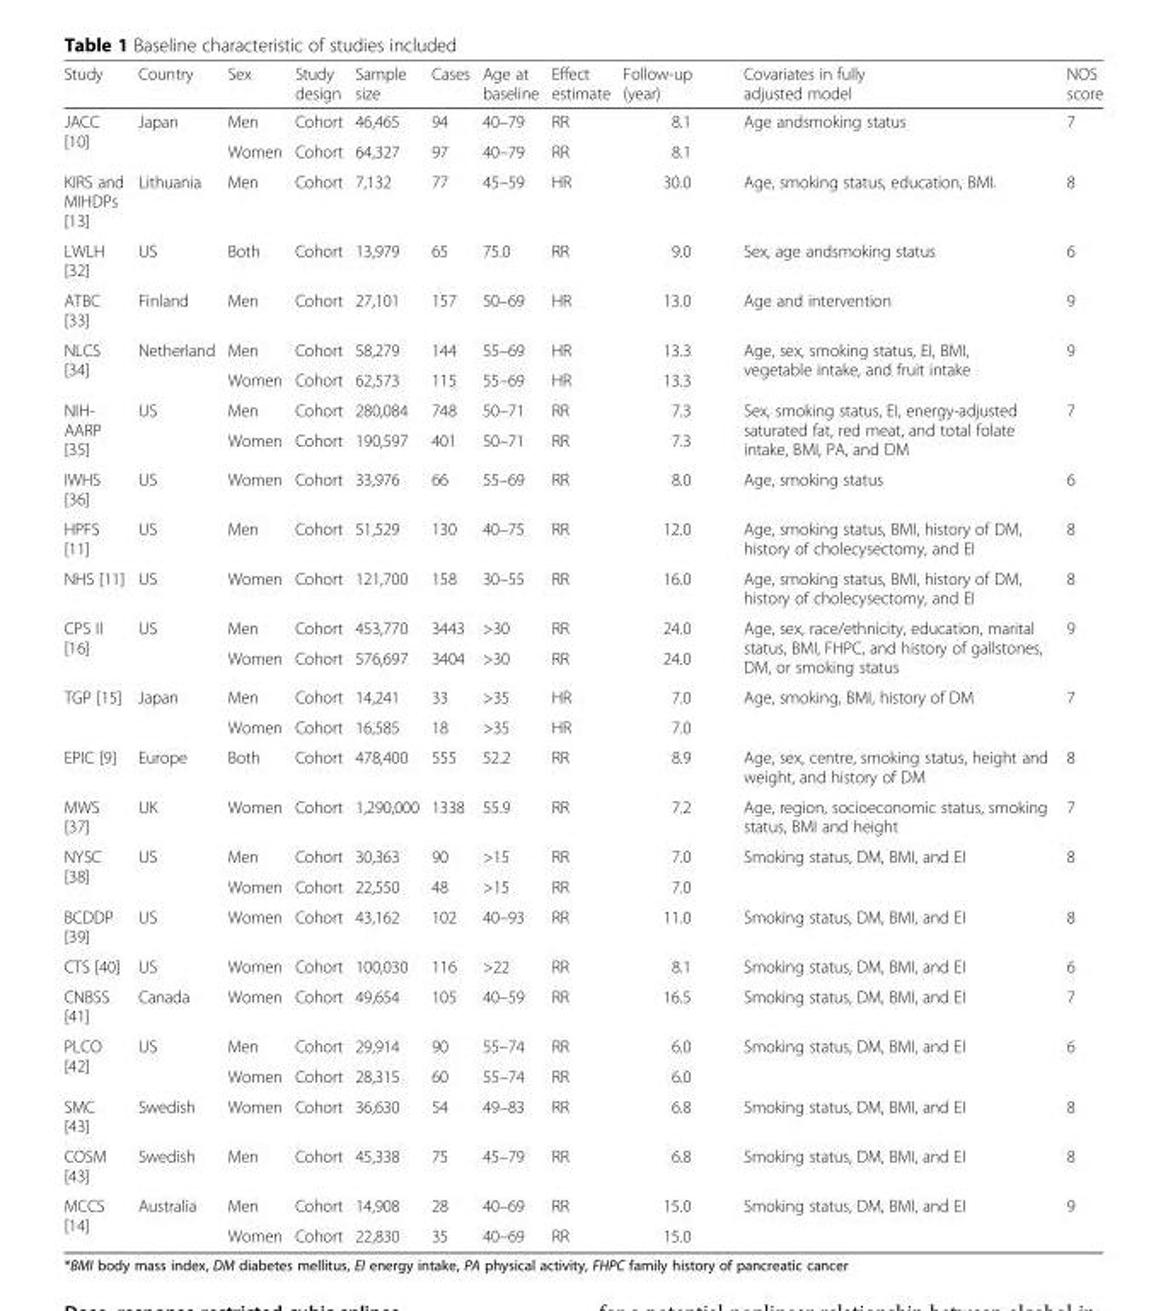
<table><thead><tr><td>Study</td><td>Country</td><td>Sex</td><td>Study design</td><td>Sample size</td><td>Cases</td><td>Age at baseline</td><td>Effect estimate</td><td>Follow-up (year)</td><td>Covariates in fully adjusted model</td><td>NOS score</td></tr></thead><tbody><tr><td rowspan="2">JACC [10]</td><td rowspan="2">Japan</td><td>Men</td><td>Cohort</td><td>46,465</td><td>94</td><td>40–79</td><td>RR</td><td>8.1</td><td rowspan="2">Age andsmoking status</td><td rowspan="2">7</td></tr><tr><td>Women</td><td>Cohort</td><td>64,327</td><td>97</td><td>40–79</td><td>RR</td><td>8.1</td></tr><tr><td>KIRS and MIHDPs [13]</td><td>Lithuania</td><td>Men</td><td>Cohort</td><td>7,132</td><td>77</td><td>45–59</td><td>HR</td><td>30.0</td><td>Age, smoking status, education, BMI.</td><td>8</td></tr><tr><td>LWLH [32]</td><td>US</td><td>Both</td><td>Cohort</td><td>13,979</td><td>65</td><td>75.0</td><td>RR</td><td>9.0</td><td>Sex, age andsmoking status</td><td>6</td></tr><tr><td>ATBC [33]</td><td>Finland</td><td>Men</td><td>Cohort</td><td>27,101</td><td>157</td><td>50–69</td><td>HR</td><td>13.0</td><td>Age and intervention</td><td>9</td></tr><tr><td rowspan="2">NLCS [34]</td><td rowspan="2">Netherland</td><td>Men</td><td>Cohort</td><td>58,279</td><td>144</td><td>55–69</td><td>HR</td><td>13.3</td><td rowspan="2">Age, sex, smoking status, EI, BMI, vegetable intake, and fruit intake</td><td rowspan="2">9</td></tr><tr><td>Women</td><td>Cohort</td><td>62,573</td><td>115</td><td>55–69</td><td>HR</td><td>13.3</td></tr><tr><td rowspan="2">NIH- AARP [35]</td><td rowspan="2">US</td><td>Men</td><td>Cohort</td><td>280,084</td><td>748</td><td>50–71</td><td>RR</td><td>7.3</td><td rowspan="2">Sex, smoking status, EI, energy-adjusted saturated fat, red meat, and total folate intake, BMI, PA, and DM</td><td rowspan="2">7</td></tr><tr><td>Women</td><td>Cohort</td><td>190,597</td><td>401</td><td>50–71</td><td>RR</td><td>7.3</td></tr><tr><td>IWHS [36]</td><td>US</td><td>Women</td><td>Cohort</td><td>33,976</td><td>66</td><td>55–69</td><td>RR</td><td>8.0</td><td>Age, smoking status</td><td>6</td></tr><tr><td>HPFS [11]</td><td>US</td><td>Men</td><td>Cohort</td><td>51,529</td><td>130</td><td>40–75</td><td>RR</td><td>12.0</td><td>Age, smoking status, BMI, history of DM, history of cholecysectomy, and EI</td><td>8</td></tr><tr><td>NHS [11]</td><td>US</td><td>Women</td><td>Cohort</td><td>121,700</td><td>158</td><td>30–55</td><td>RR</td><td>16.0</td><td>Age, smoking status, BMI, history of DM, history of cholecysectomy, and EI</td><td>8</td></tr><tr><td rowspan="2">CPS II [16]</td><td rowspan="2">US</td><td>Men</td><td>Cohort</td><td>453,770</td><td>3443</td><td>&gt;30</td><td>RR</td><td>24.0</td><td rowspan="2">Age, sex, race/ethnicity, education, marital status, BMI, FHPC, and history of gallstones, DM, or smoking status</td><td rowspan="2">9</td></tr><tr><td>Women</td><td>Cohort</td><td>576,697</td><td>3404</td><td>&gt;30</td><td>RR</td><td>24.0</td></tr><tr><td rowspan="2">TGP [15]</td><td rowspan="2">Japan</td><td>Men</td><td>Cohort</td><td>14,241</td><td>33</td><td>&gt;35</td><td>HR</td><td>7.0</td><td rowspan="2">Age, smoking, BMI, history of DM</td><td rowspan="2">7</td></tr><tr><td>Women</td><td>Cohort</td><td>16,585</td><td>18</td><td>&gt;35</td><td>HR</td><td>7.0</td></tr><tr><td>EPIC [9]</td><td>Europe</td><td>Both</td><td>Cohort</td><td>478,400</td><td>555</td><td>52.2</td><td>RR</td><td>8.9</td><td>Age, sex, centre, smoking status, height and weight, and history of DM</td><td>8</td></tr><tr><td>MWS [37]</td><td>UK</td><td>Women</td><td>Cohort</td><td>1,290,000</td><td>1338</td><td>55.9</td><td>RR</td><td>7.2</td><td>Age, region, socioeconomic status, smoking status, BMI and height</td><td>7</td></tr><tr><td rowspan="2">NYSC [38]</td><td rowspan="2">US</td><td>Men</td><td>Cohort</td><td>30,363</td><td>90</td><td>&gt;15</td><td>RR</td><td>7.0</td><td rowspan="2">Smoking status, DM, BMI, and EI</td><td rowspan="2">8</td></tr><tr><td>Women</td><td>Cohort</td><td>22,550</td><td>48</td><td>&gt;15</td><td>RR</td><td>7.0</td></tr><tr><td>BCDDP [39]</td><td>US</td><td>Women</td><td>Cohort</td><td>43,162</td><td>102</td><td>40–93</td><td>RR</td><td>11.0</td><td>Smoking status, DM, BMI, and EI</td><td>8</td></tr><tr><td>CTS [40]</td><td>US</td><td>Women</td><td>Cohort</td><td>100,030</td><td>116</td><td>&gt;22</td><td>RR</td><td>8.1</td><td>Smoking status, DM, BMI, and EI</td><td>6</td></tr><tr><td>CNBSS [41]</td><td>Canada</td><td>Women</td><td>Cohort</td><td>49,654</td><td>105</td><td>40–59</td><td>RR</td><td>16.5</td><td>Smoking status, DM, BMI, and EI</td><td>7</td></tr><tr><td rowspan="2">PLCO [42]</td><td rowspan="2">US</td><td>Men</td><td>Cohort</td><td>29,914</td><td>90</td><td>55–74</td><td>RR</td><td>6.0</td><td rowspan="2">Smoking status, DM, BMI, and EI</td><td rowspan="2">6</td></tr><tr><td>Women</td><td>Cohort</td><td>28,315</td><td>60</td><td>55–74</td><td>RR</td><td>6.0</td></tr><tr><td>SMC [43]</td><td>Swedish</td><td>Women</td><td>Cohort</td><td>36,630</td><td>54</td><td>49–83</td><td>RR</td><td>6.8</td><td>Smoking status, DM, BMI, and EI</td><td>8</td></tr><tr><td>COSM [43]</td><td>Swedish</td><td>Men</td><td>Cohort</td><td>45,338</td><td>75</td><td>45–79</td><td>RR</td><td>6.8</td><td>Smoking status, DM, BMI, and EI</td><td>8</td></tr><tr><td rowspan="2">MCCS [14]</td><td rowspan="2">Australia</td><td>Men</td><td>Cohort</td><td>14,908</td><td>28</td><td>40–69</td><td>RR</td><td>15.0</td><td rowspan="2">Smoking status, DM, BMI, and EI</td><td rowspan="2">9</td></tr><tr><td>Women</td><td>Cohort</td><td>22,830</td><td>35</td><td>40–69</td><td>RR</td><td>15.0</td></tr></tbody></table>